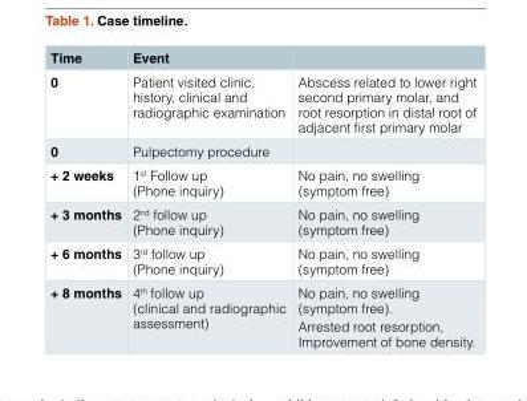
<table><thead><tr><td>Time</td><td>Event</td><td></td></tr></thead><tbody><tr><td>0</td><td>Patient visited clinic, history, clinical and radiographic examination</td><td>Abscess related to lower right second primary molar, and root resorption in distal root of adjacent first primary molar</td></tr><tr><td>0</td><td>Pulpectomy procedure</td><td></td></tr><tr><td>+ 2 weeks</td><td>1<sup>st</sup> Follow up (Phone inquiry)</td><td>No pain, no swelling (symptom free)</td></tr><tr><td>+ 3 months</td><td>2<sup>nd</sup> follow up (Phone inquiry)</td><td>No pain, no swelling (symptom free)</td></tr><tr><td>+ 6 months</td><td>3<sup>rd</sup> follow up (Phone inquiry)</td><td>No pain, no swelling (symptom free)</td></tr><tr><td>+ 8 months</td><td>4<sup>th</sup> follow up (clinical and radiographic assessment)</td><td>No pain, no swelling (symptom free). Arrested root resorption, Improvement of bone density.</td></tr></tbody></table>